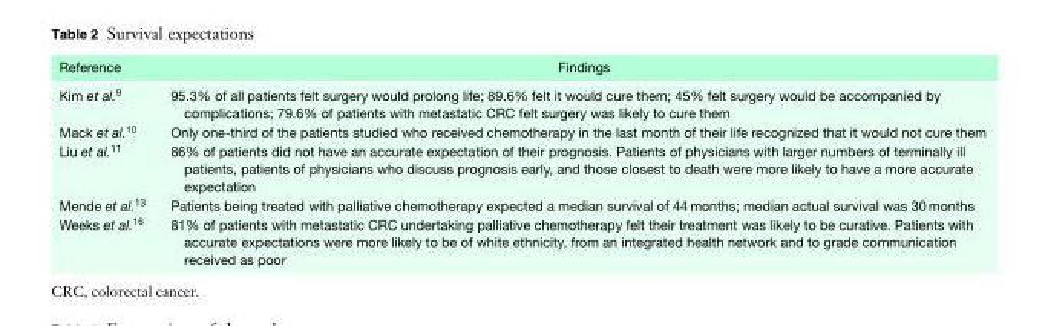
<table><thead><tr><td>Reference</td><td>Findings</td></tr></thead><tbody><tr><td>Kim et al.<sup>9</sup></td><td>95.3% of all patients felt surgery would prolong life; 89.6% felt it would cure them; 45% felt surgery would be accompanied by complications; 79.6% of patients with metastatic CRC felt surgery was likely to cure them</td></tr><tr><td>Mack et al.<sup>10</sup></td><td>Only one-third of the patients studied who received chemotherapy in the last month of their life recognized that it would not cure them</td></tr><tr><td>Liu et al.<sup>11</sup></td><td>86% of patients did not have an accurate expectation of their prognosis. Patients of physicians with larger numbers of terminally ill patients, patients of physicians who discuss prognosis early, and those closest to death were more likely to have a more accurate expectation</td></tr><tr><td>Mende et al.<sup>13</sup></td><td>Patients being treated with palliative chemotherapy expected a median survival of 44 months; median actual survival was 30 months</td></tr><tr><td>Weeks et al.<sup>16</sup></td><td>81% of patients with metastatic CRC undertaking palliative chemotherapy felt their treatment was likely to be curative. Patients with accurate expectations were more likely to be of white ethnicity, from an integrated health network and to grade communication received as poor</td></tr></tbody></table>